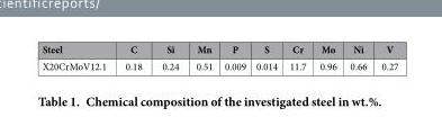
<table><thead><tr><td>Steel</td><td>C</td><td>Si</td><td>Mn</td><td>P</td><td>S</td><td>Cr</td><td>Mo</td><td>Ni</td><td>V</td></tr></thead><tbody><tr><td>X20CrMoV12.1</td><td>0.18</td><td>0.24</td><td>0.51</td><td>0.009</td><td>0.014</td><td>11.7</td><td>0.96</td><td>0.66</td><td>0.27</td></tr></tbody></table>